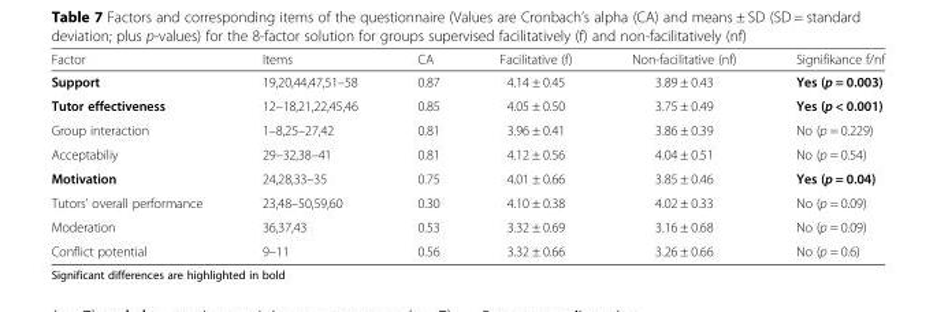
<table><thead><tr><td>Factor</td><td>Items</td><td>CA</td><td>Facilitative (f)</td><td>Non-facilitative (nf)</td><td>Signifikance f/nf</td></tr></thead><tbody><tr><td>Support</td><td>19,20,44,47,51–58</td><td>0.87</td><td>4.14 ± 0.45</td><td>3.89 ± 0.43</td><td>Yes (p = 0.003)</td></tr><tr><td>Tutor effectiveness</td><td>12–18,21,22,45,46</td><td>0.85</td><td>4.05 ± 0.50</td><td>3.75 ± 0.49</td><td>Yes (p &lt; 0.001)</td></tr><tr><td>Group interaction</td><td>1–8,25–27,42</td><td>0.81</td><td>3.96 ± 0.41</td><td>3.86 ± 0.39</td><td>No (p = 0.229)</td></tr><tr><td>Acceptabiliy</td><td>29–32,38–41</td><td>0.81</td><td>4.12 ± 0.56</td><td>4.04 ± 0.51</td><td>No (p = 0.54)</td></tr><tr><td>Motivation</td><td>24,28,33–35</td><td>0.75</td><td>4.01 ± 0.66</td><td>3.85 ± 0.46</td><td>Yes (p = 0.04)</td></tr><tr><td>Tutors’ overall performance</td><td>23,48–50,59,60</td><td>0.30</td><td>4.10 ± 0.38</td><td>4.02 ± 0.33</td><td>No (p = 0.09)</td></tr><tr><td>Moderation</td><td>36,37,43</td><td>0.53</td><td>3.32 ± 0.69</td><td>3.16 ± 0.68</td><td>No (p = 0.09)</td></tr><tr><td>Conflict potential</td><td>9–11</td><td>0.56</td><td>3.32 ± 0.66</td><td>3.26 ± 0.66</td><td>No (p = 0.6)</td></tr></tbody></table>